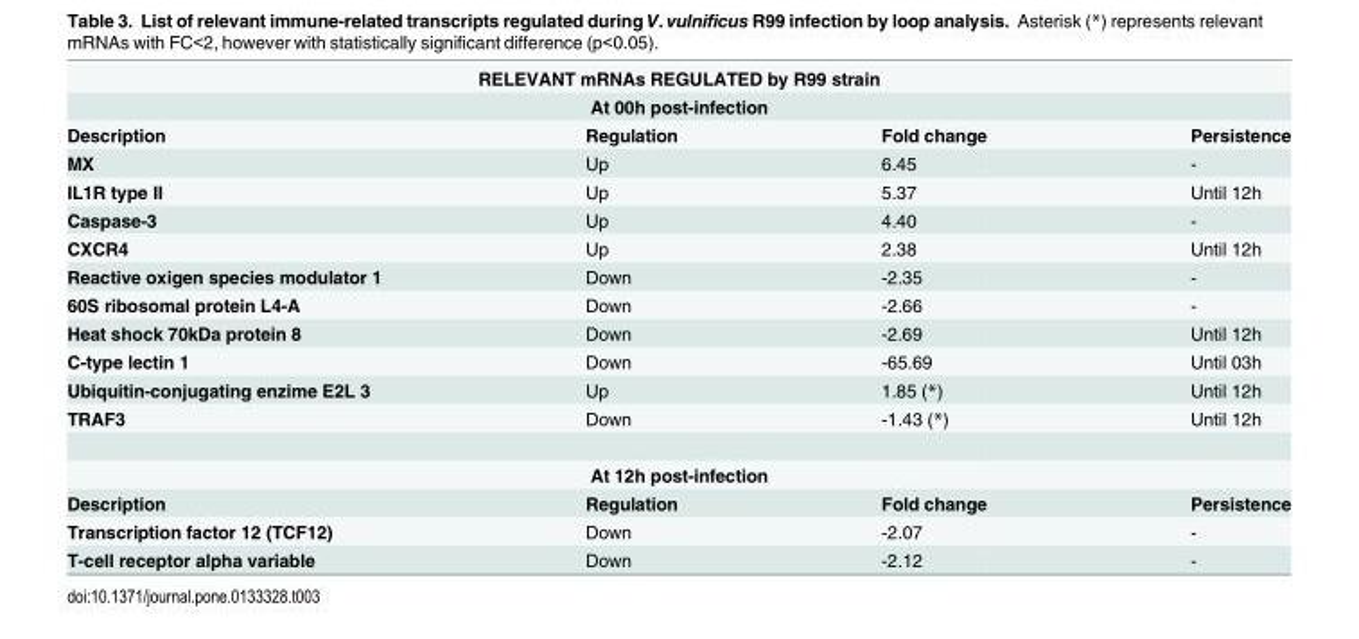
<table><tbody><tr><td colspan="4">RELEVANT mRNAs REGULATED by R99 strain</td></tr><tr><td colspan="4">At 00h post-infection</td></tr><tr><td>Description</td><td>Regulation</td><td>Fold change</td><td>Persistence</td></tr><tr><td>MX</td><td>Up</td><td>6.45</td><td>-</td></tr><tr><td>IL1R type II</td><td>Up</td><td>5.37</td><td>Until 12h</td></tr><tr><td>Caspase-3</td><td>Up</td><td>4.40</td><td>-</td></tr><tr><td>CXCR4</td><td>Up</td><td>2.38</td><td>Until 12h</td></tr><tr><td>Reactive oxigen species modulator 1</td><td>Down</td><td>-2.35</td><td>-</td></tr><tr><td>60S ribosomal protein L4-A</td><td>Down</td><td>-2.66</td><td>-</td></tr><tr><td>Heat shock 70kDa protein 8</td><td>Down</td><td>-2.69</td><td>Until 12h</td></tr><tr><td>C-type lectin 1</td><td>Down</td><td>-65.69</td><td>Until 03h</td></tr><tr><td>Ubiquitin-conjugating enzime E2L 3</td><td>Up</td><td>1.85 (*)</td><td>Until 12h</td></tr><tr><td>TRAF3</td><td>Down</td><td>-1.43 (*)</td><td>Until 12h</td></tr><tr><td colspan="4">At 12h post-infection</td></tr><tr><td>Description</td><td>Regulation</td><td>Fold change</td><td>Persistence</td></tr><tr><td>Transcription factor 12 (TCF12)</td><td>Down</td><td>-2.07</td><td>-</td></tr><tr><td>T-cell receptor alpha variable</td><td>Down</td><td>-2.12</td><td>-</td></tr></tbody></table>